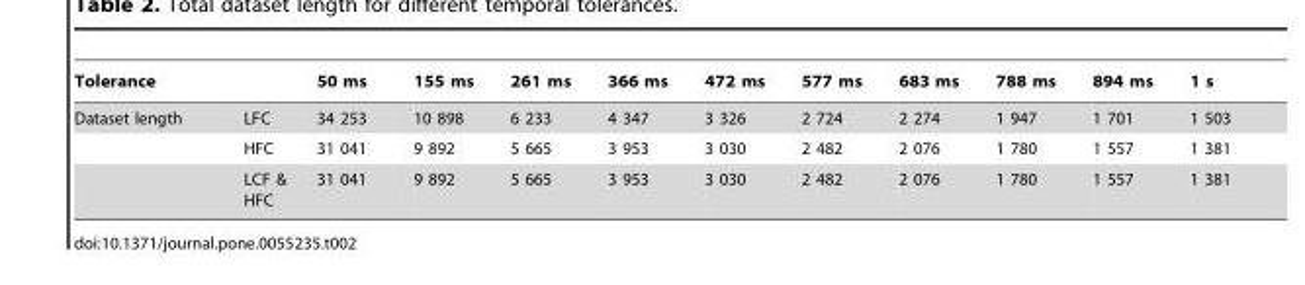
<table><thead><tr><td colspan="2">Tolerance</td><td rowspan="2">50 ms 34 253</td><td rowspan="2">155 ms 10 898</td><td rowspan="2">261 ms 6 233</td><td rowspan="2">366 ms 4 347</td><td rowspan="2">472 ms 3 326</td><td rowspan="2">577 ms 2 724</td><td rowspan="2">683 ms 2 274</td><td rowspan="2">788 ms 1 947</td><td rowspan="2">894 ms 1 701</td><td rowspan="2">1 s 1 503</td></tr><tr><td>Dataset length</td><td>LFC</td></tr></thead><tbody><tr><td></td><td>HFC</td><td>31 041</td><td>9 892</td><td>5 665</td><td>3 953</td><td>3 030</td><td>2 482</td><td>2 076</td><td>1 780</td><td>1 557</td><td>1 381</td></tr><tr><td></td><td>LCF &amp; HFC</td><td>31 041</td><td>9 892</td><td>5 665</td><td>3 953</td><td>3 030</td><td>2 482</td><td>2 076</td><td>1 780</td><td>1 557</td><td>1 381</td></tr></tbody></table>